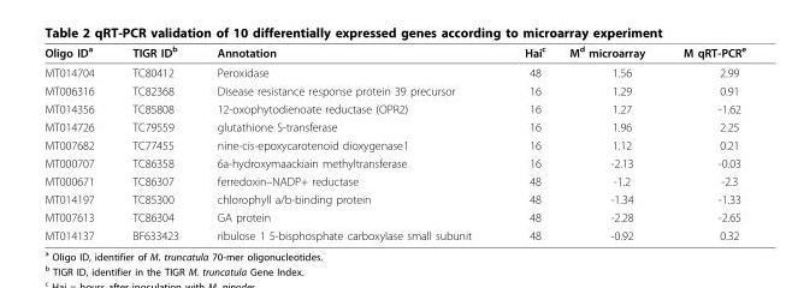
<table><thead><tr><td>Oligo ID<sup>a</sup></td><td>TIGR ID<sup>b</sup></td><td>Annotation</td><td>Hai<sup>c</sup></td><td>M<sup>d</sup> microarray</td><td>M qRT-PCR<sup>e</sup></td></tr></thead><tbody><tr><td>MT014704</td><td>TC80412</td><td>Peroxidase</td><td>48</td><td>1.56</td><td>2.99</td></tr><tr><td>MT006316</td><td>TC82368</td><td>Disease resistance response protein 39 precursor</td><td>16</td><td>1.29</td><td>0.91</td></tr><tr><td>MT014356</td><td>TC85808</td><td>12-oxophytodienoate reductase (OPR2)</td><td>16</td><td>1.27</td><td>-1.62</td></tr><tr><td>MT014726</td><td>TC79559</td><td>glutathione S-transferase</td><td>16</td><td>1.96</td><td>2.25</td></tr><tr><td>MT007682</td><td>TC77455</td><td>nine-cis-epoxycarotenoid dioxygenase1</td><td>16</td><td>1.12</td><td>0.21</td></tr><tr><td>MT000707</td><td>TC86358</td><td>6a-hydroxymaackiain methyltransferase</td><td>16</td><td>-2.13</td><td>-0.03</td></tr><tr><td>MT000671</td><td>TC86307</td><td>ferredoxin–NADP+ reductase</td><td>48</td><td>-1.2</td><td>-2.3</td></tr><tr><td>MT014197</td><td>TC85300</td><td>chlorophyll a/b-binding protein</td><td>48</td><td>-1.34</td><td>-1.33</td></tr><tr><td>MT007613</td><td>TC86304</td><td>GA protein</td><td>48</td><td>-2.28</td><td>-2.65</td></tr><tr><td>MT014137</td><td>BF633423</td><td>ribulose 1 5-bisphosphate carboxylase small subunit</td><td>48</td><td>-0.92</td><td>0.32</td></tr></tbody></table>